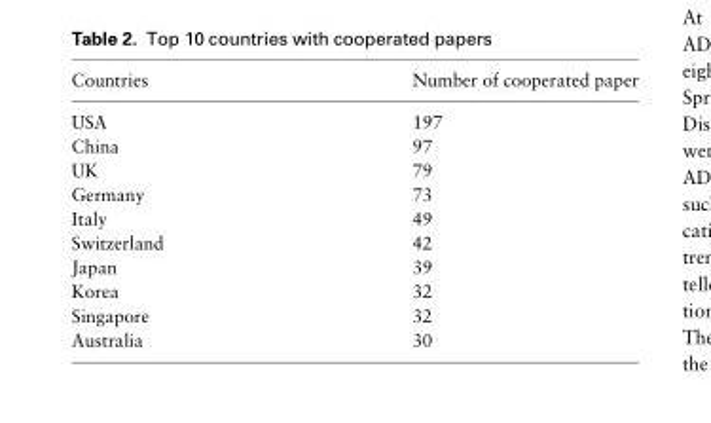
<table><thead><tr><td>Countries</td><td>Number of cooperated paper</td></tr></thead><tbody><tr><td>USA</td><td>197</td></tr><tr><td>China</td><td>97</td></tr><tr><td>UK</td><td>79</td></tr><tr><td>Germany</td><td>73</td></tr><tr><td>Italy</td><td>49</td></tr><tr><td>Switzerland</td><td>42</td></tr><tr><td>Japan</td><td>39</td></tr><tr><td>Korea</td><td>32</td></tr><tr><td>Singapore</td><td>32</td></tr><tr><td>Australia</td><td>30</td></tr></tbody></table>